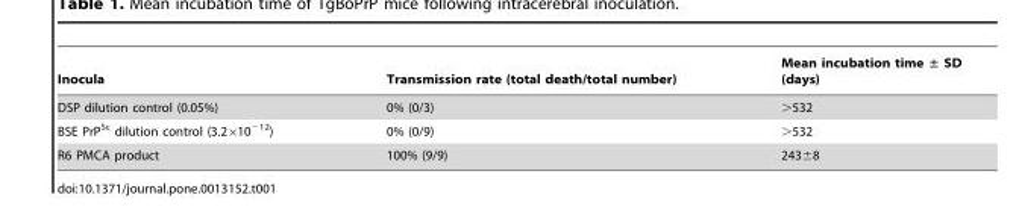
<table><thead><tr><td>Inocula</td><td>Transmission rate (total death/total number)</td><td>Mean incubation time ± SD (days)</td></tr></thead><tbody><tr><td>DSP dilution control (0.05%)</td><td>0% (0/3)</td><td>&gt;532</td></tr><tr><td>BSE PrP<sup>Sc</sup> dilution control (3.2×10<sup>−12</sup>)</td><td>0% (0/9)</td><td>&gt;532</td></tr><tr><td>R6 PMCA product</td><td>100% (9/9)</td><td>243±8</td></tr></tbody></table>